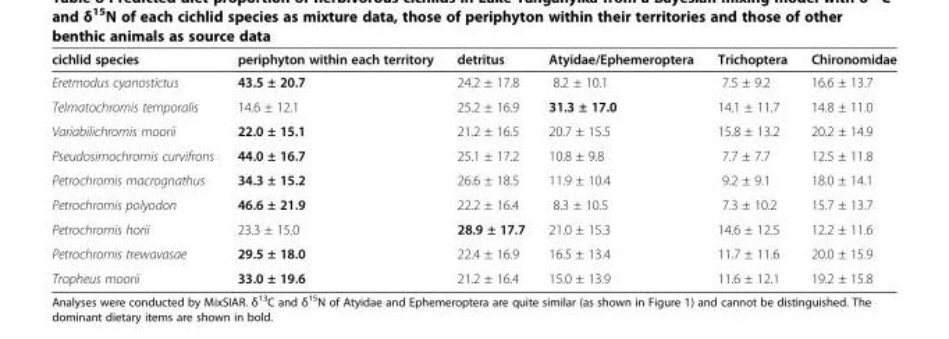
<table><thead><tr><td>cichlid species</td><td>periphyton within each territory</td><td>detritus</td><td>Atyidae/Ephemeroptera</td><td>Trichoptera</td><td>Chironomidae</td></tr></thead><tbody><tr><td>Eretmodus cyanostictus</td><td>43.5 ± 20.7</td><td>24.2 ± 17.8</td><td>8.2 ± 10.1</td><td>7.5 ± 9.2</td><td>16.6 ± 13.7</td></tr><tr><td>Telmatochromis temporalis</td><td>14.6 ± 12.1</td><td>25.2 ± 16.9</td><td>31.3 ± 17.0</td><td>14.1 ± 11.7</td><td>14.8 ± 11.0</td></tr><tr><td>Variabilichromis moorii</td><td>22.0 ± 15.1</td><td>21.2 ± 16.5</td><td>20.7 ± 15.5</td><td>15.8 ± 13.2</td><td>20.2 ± 14.9</td></tr><tr><td>Pseudosimochromis curvifrons</td><td>44.0 ± 16.7</td><td>25.1 ± 17.2</td><td>10.8 ± 9.8</td><td>7.7 ± 7.7</td><td>12.5 ± 11.8</td></tr><tr><td>Petrochromis macrognathus</td><td>34.3 ± 15.2</td><td>26.6 ± 18.5</td><td>11.9 ± 10.4</td><td>9.2 ± 9.1</td><td>18.0 ± 14.1</td></tr><tr><td>Petrochromis polyodon</td><td>46.6 ± 21.9</td><td>22.2 ± 16.4</td><td>8.3 ± 10.5</td><td>7.3 ± 10.2</td><td>15.7 ± 13.7</td></tr><tr><td>Petrochromis horii</td><td>23.3 ± 15.0</td><td>28.9 ± 17.7</td><td>21.0 ± 15.3</td><td>14.6 ± 12.5</td><td>12.2 ± 11.6</td></tr><tr><td>Petrochromis trewavasae</td><td>29.5 ± 18.0</td><td>22.4 ± 16.9</td><td>16.5 ± 13.4</td><td>11.7 ± 11.6</td><td>20.0 ± 15.9</td></tr><tr><td>Tropheus moorii</td><td>33.0 ± 19.6</td><td>21.2 ± 16.4</td><td>15.0 ± 13.9</td><td>11.6 ± 12.1</td><td>19.2 ± 15.8</td></tr></tbody></table>